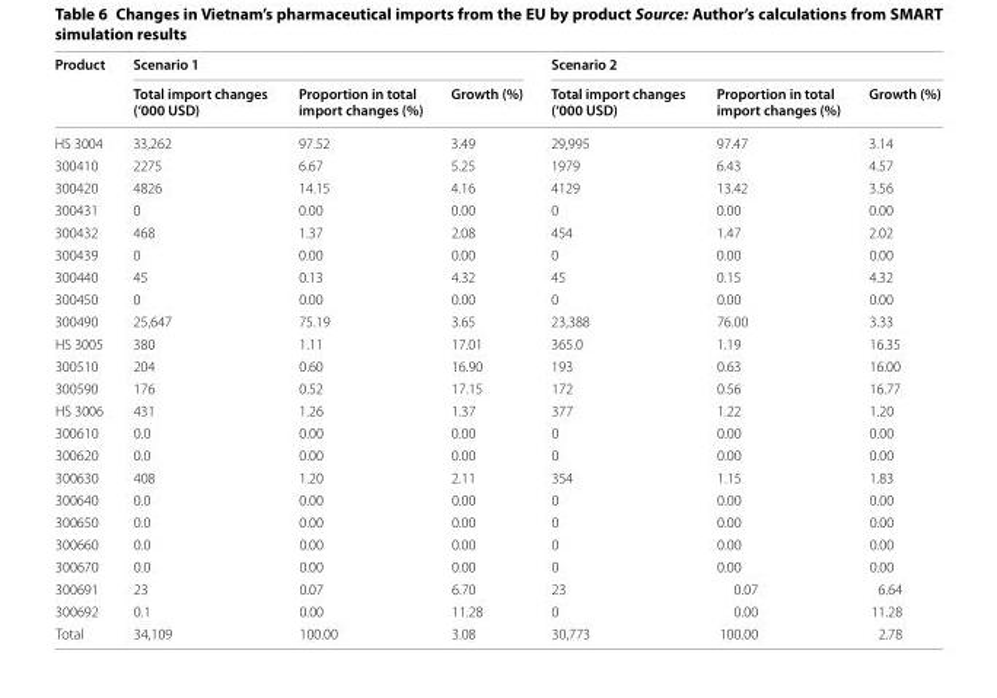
<table><thead><tr><td rowspan="2">Product</td><td colspan="3">Scenario 1</td><td colspan="3">Scenario 2</td></tr><tr><td>Total import changes (‘000 USD)</td><td>Proportion in total import changes (%)</td><td>Growth (%)</td><td>Total import changes (‘000 USD)</td><td>Proportion in total import changes (%)</td><td>Growth (%)</td></tr></thead><tbody><tr><td>HS 3004</td><td>33,262</td><td>97.52</td><td>3.49</td><td>29,995</td><td>97.47</td><td>3.14</td></tr><tr><td>300410</td><td>2275</td><td>6.67</td><td>5.25</td><td>1979</td><td>6.43</td><td>4.57</td></tr><tr><td>300420</td><td>4826</td><td>14.15</td><td>4.16</td><td>4129</td><td>13.42</td><td>3.56</td></tr><tr><td>300431</td><td>0</td><td>0.00</td><td>0.00</td><td>0</td><td>0.00</td><td>0.00</td></tr><tr><td>300432</td><td>468</td><td>1.37</td><td>2.08</td><td>454</td><td>1.47</td><td>2.02</td></tr><tr><td>300439</td><td>0</td><td>0.00</td><td>0.00</td><td>0</td><td>0.00</td><td>0.00</td></tr><tr><td>300440</td><td>45</td><td>0.13</td><td>4.32</td><td>45</td><td>0.15</td><td>4.32</td></tr><tr><td>300450</td><td>0</td><td>0.00</td><td>0.00</td><td>0</td><td>0.00</td><td>0.00</td></tr><tr><td>300490</td><td>25,647</td><td>75.19</td><td>3.65</td><td>23,388</td><td>76.00</td><td>3.33</td></tr><tr><td>HS 3005</td><td>380</td><td>1.11</td><td>17.01</td><td>365.0</td><td>1.19</td><td>16.35</td></tr><tr><td>300510</td><td>204</td><td>0.60</td><td>16.90</td><td>193</td><td>0.63</td><td>16.00</td></tr><tr><td>300590</td><td>176</td><td>0.52</td><td>17.15</td><td>172</td><td>0.56</td><td>16.77</td></tr><tr><td>HS 3006</td><td>431</td><td>1.26</td><td>1.37</td><td>377</td><td>1.22</td><td>1.20</td></tr><tr><td>300610</td><td>0.0</td><td>0.00</td><td>0.00</td><td>0</td><td>0.00</td><td>0.00</td></tr><tr><td>300620</td><td>0.0</td><td>0.00</td><td>0.00</td><td>0</td><td>0.00</td><td>0.00</td></tr><tr><td>300630</td><td>408</td><td>1.20</td><td>2.11</td><td>354</td><td>1.15</td><td>1.83</td></tr><tr><td>300640</td><td>0.0</td><td>0.00</td><td>0.00</td><td>0</td><td>0.00</td><td>0.00</td></tr><tr><td>300650</td><td>0.0</td><td>0.00</td><td>0.00</td><td>0</td><td>0.00</td><td>0.00</td></tr><tr><td>300660</td><td>0.0</td><td>0.00</td><td>0.00</td><td>0</td><td>0.00</td><td>0.00</td></tr><tr><td>300670</td><td>0.0</td><td>0.00</td><td>0.00</td><td>0</td><td>0.00</td><td>0.00</td></tr><tr><td>300691</td><td>23</td><td>0.07</td><td>6.70</td><td>23</td><td>0.07</td><td>6.64</td></tr><tr><td>300692</td><td>0.1</td><td>0.00</td><td>11.28</td><td>0</td><td>0.00</td><td>11.28</td></tr><tr><td>Total</td><td>34,109</td><td>100.00</td><td>3.08</td><td>30,773</td><td>100.00</td><td>2.78</td></tr></tbody></table>